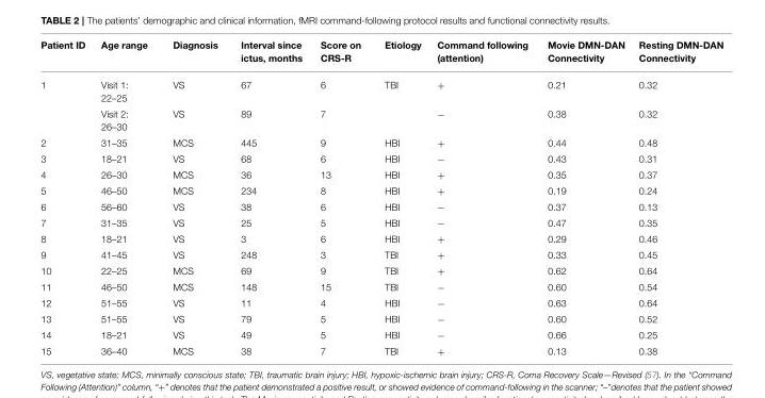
<table><thead><tr><td>Patient ID</td><td>Age range</td><td>Diagnosis</td><td>Interval since ictus, months</td><td>Score on CRS-R</td><td>Etiology</td><td>Command following (attention)</td><td>Movie DMN-DAN Connectivity</td><td>Resting DMN-DAN Connectivity</td></tr></thead><tbody><tr><td rowspan="2">1</td><td>Visit 1: 22–25</td><td>VS</td><td>67</td><td>6</td><td>TBI</td><td>+</td><td>0.21</td><td>0.32</td></tr><tr><td>Visit 2: 26–30</td><td>VS</td><td>89</td><td>7</td><td></td><td>−</td><td>0.38</td><td>0.32</td></tr><tr><td>2</td><td>31–35</td><td>MCS</td><td>445</td><td>9</td><td>HBI</td><td>+</td><td>0.44</td><td>0.48</td></tr><tr><td>3</td><td>18–21</td><td>VS</td><td>68</td><td>6</td><td>HBI</td><td>−</td><td>0.43</td><td>0.31</td></tr><tr><td>4</td><td>26–30</td><td>MCS</td><td>36</td><td>13</td><td>HBI</td><td>+</td><td>0.35</td><td>0.37</td></tr><tr><td>5</td><td>46–50</td><td>MCS</td><td>234</td><td>8</td><td>HBI</td><td>+</td><td>0.19</td><td>0.24</td></tr><tr><td>6</td><td>56–60</td><td>VS</td><td>38</td><td>6</td><td>HBI</td><td>−</td><td>0.37</td><td>0.13</td></tr><tr><td>7</td><td>31–35</td><td>VS</td><td>25</td><td>5</td><td>HBI</td><td>−</td><td>0.47</td><td>0.35</td></tr><tr><td>8</td><td>18–21</td><td>VS</td><td>3</td><td>6</td><td>HBI</td><td>+</td><td>0.29</td><td>0.46</td></tr><tr><td>9</td><td>41–45</td><td>VS</td><td>248</td><td>3</td><td>TBI</td><td>+</td><td>0.33</td><td>0.45</td></tr><tr><td>10</td><td>22–25</td><td>MCS</td><td>69</td><td>9</td><td>TBI</td><td>+</td><td>0.62</td><td>0.64</td></tr><tr><td>11</td><td>46–50</td><td>MCS</td><td>148</td><td>15</td><td>TBI</td><td>−</td><td>0.60</td><td>0.54</td></tr><tr><td>12</td><td>51–55</td><td>VS</td><td>11</td><td>4</td><td>HBI</td><td>−</td><td>0.63</td><td>0.64</td></tr><tr><td>13</td><td>51–55</td><td>VS</td><td>79</td><td>5</td><td>HBI</td><td>−</td><td>0.60</td><td>0.52</td></tr><tr><td>14</td><td>18–21</td><td>VS</td><td>49</td><td>5</td><td>HBI</td><td>−</td><td>0.66</td><td>0.25</td></tr><tr><td>15</td><td>36–40</td><td>MCS</td><td>38</td><td>7</td><td>TBI</td><td>+</td><td>0.13</td><td>0.38</td></tr></tbody></table>